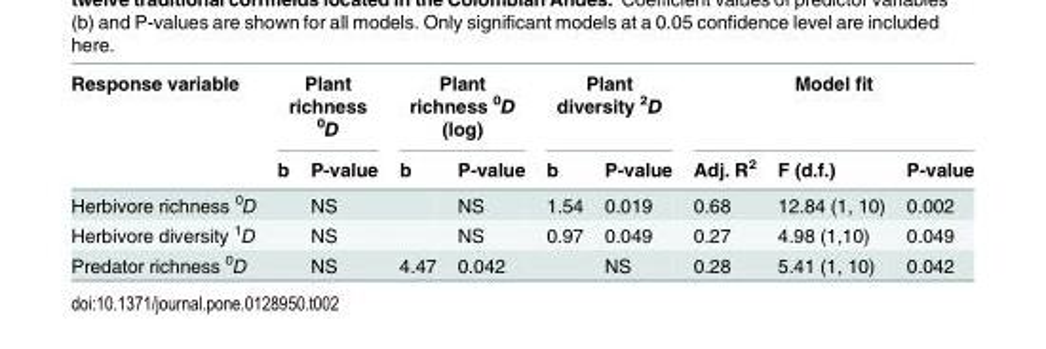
<table><thead><tr><td rowspan="2">Response variable</td><td colspan="2">Plant richness <sup>0</sup>D</td><td colspan="2">Plant richness <sup>0</sup>D (log)</td><td colspan="2">Plant diversity <sup>2</sup>D</td><td colspan="3">Model fit</td></tr><tr><td>b</td><td>P-value</td><td>b</td><td>P-value</td><td>b</td><td>P-value</td><td>Adj. R<sup>2</sup></td><td>F (d.f.)</td><td>P-value</td></tr></thead><tbody><tr><td>Herbivore richness <sup>0</sup>D</td><td></td><td>NS</td><td></td><td>NS</td><td>1.54</td><td>0.019</td><td>0.68</td><td>12.84 (1, 10)</td><td>0.002</td></tr><tr><td>Herbivore diversity <sup>1</sup>D</td><td></td><td>NS</td><td></td><td>NS</td><td>0.97</td><td>0.049</td><td>0.27</td><td>4.98 (1,10)</td><td>0.049</td></tr><tr><td>Predator richness <sup>0</sup>D</td><td></td><td>NS</td><td>4.47</td><td>0.042</td><td></td><td>NS</td><td>0.28</td><td>5.41 (1, 10)</td><td>0.042</td></tr></tbody></table>